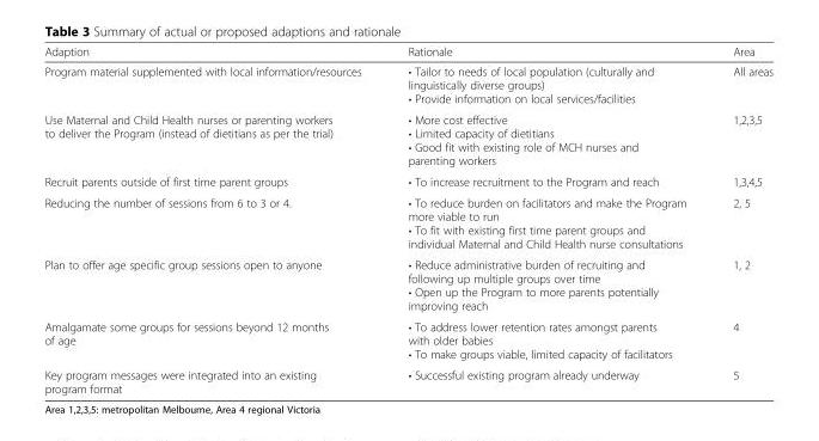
<table><thead><tr><td>Adaption</td><td>Rationale</td><td>Area</td></tr></thead><tbody><tr><td>Program material supplemented with local information/resources</td><td>• Tailor to needs of local population (culturally and linguistically diverse groups) • Provide information on local services/facilities</td><td>All areas</td></tr><tr><td>Use Maternal and Child Health nurses or parenting workers to deliver the Program (instead of dietitians as per the trial)</td><td>• More cost effective • Limited capacity of dietitians • Good fit with existing role of MCH nurses and parenting workers</td><td>1,2,3,5</td></tr><tr><td>Recruit parents outside of first time parent groups</td><td>• To increase recruitment to the Program and reach</td><td>1,3,4,5</td></tr><tr><td>Reducing the number of sessions from 6 to 3 or 4.</td><td>• To reduce burden on facilitators and make the Program more viable to run • To fit with existing first time parent groups and individual Maternal and Child Health nurse consultations</td><td>2, 5</td></tr><tr><td>Plan to offer age specific group sessions open to anyone</td><td>• Reduce administrative burden of recruiting and following up multiple groups over time • Open up the Program to more parents potentially improving reach</td><td>1, 2</td></tr><tr><td>Amalgamate some groups for sessions beyond 12 months of age</td><td>• To address lower retention rates amongst parents with older babies • To make groups viable, limited capacity of facilitators</td><td>4</td></tr><tr><td>Key program messages were integrated into an existing program format</td><td>• Successful existing program already underway</td><td>5</td></tr></tbody></table>